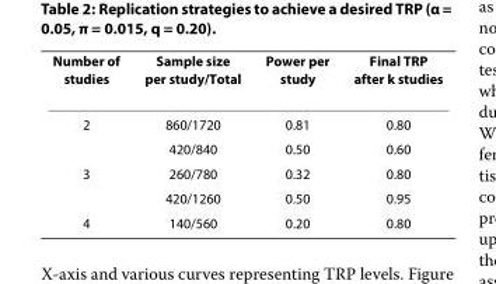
<table><thead><tr><td>Number of studies</td><td>Sample size per study/Total</td><td>Power per study</td><td>Final TRP after k studies</td></tr></thead><tbody><tr><td rowspan="2">2</td><td>860/1720</td><td>0.81</td><td>0.80</td></tr><tr><td>420/840</td><td>0.50</td><td>0.60</td></tr><tr><td rowspan="2">3</td><td>260/780</td><td>0.32</td><td>0.80</td></tr><tr><td>420/1260</td><td>0.50</td><td>0.95</td></tr><tr><td>4</td><td>140/560</td><td>0.20</td><td>0.80</td></tr></tbody></table>